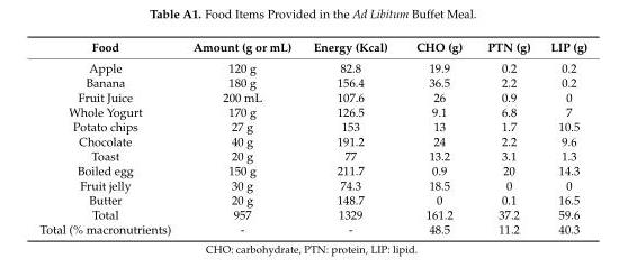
<table><thead><tr><td>Food</td><td>Amount (g or mL)</td><td>Energy (Kcal)</td><td>CHO (g)</td><td>PTN (g)</td><td>LIP (g)</td></tr></thead><tbody><tr><td>Apple</td><td>120 g</td><td>82.8</td><td>19.9</td><td>0.2</td><td>0.2</td></tr><tr><td>Banana</td><td>180 g</td><td>156.4</td><td>36.5</td><td>2.2</td><td>0.2</td></tr><tr><td>Fruit Juice</td><td>200 mL</td><td>107.6</td><td>26</td><td>0.9</td><td>0</td></tr><tr><td>Whole Yogurt</td><td>170 g</td><td>126.5</td><td>9.1</td><td>6.8</td><td>7</td></tr><tr><td>Potato chips</td><td>27 g</td><td>153</td><td>13</td><td>1.7</td><td>10.5</td></tr><tr><td>Chocolate</td><td>40 g</td><td>191.2</td><td>24</td><td>2.2</td><td>9.6</td></tr><tr><td>Toast</td><td>20 g</td><td>77</td><td>13.2</td><td>3.1</td><td>1.3</td></tr><tr><td>Boiled egg</td><td>150 g</td><td>211.7</td><td>0.9</td><td>20</td><td>14.3</td></tr><tr><td>Fruit jelly</td><td>30 g</td><td>74.3</td><td>18.5</td><td>0</td><td>0</td></tr><tr><td>Butter</td><td>20 g</td><td>148.7</td><td>0</td><td>0.1</td><td>16.5</td></tr><tr><td>Total</td><td>957</td><td>1329</td><td>161.2</td><td>37.2</td><td>59.6</td></tr><tr><td>Total (% macronutrients)</td><td>-</td><td>-</td><td>48.5</td><td>11.2</td><td>40.3</td></tr></tbody></table>